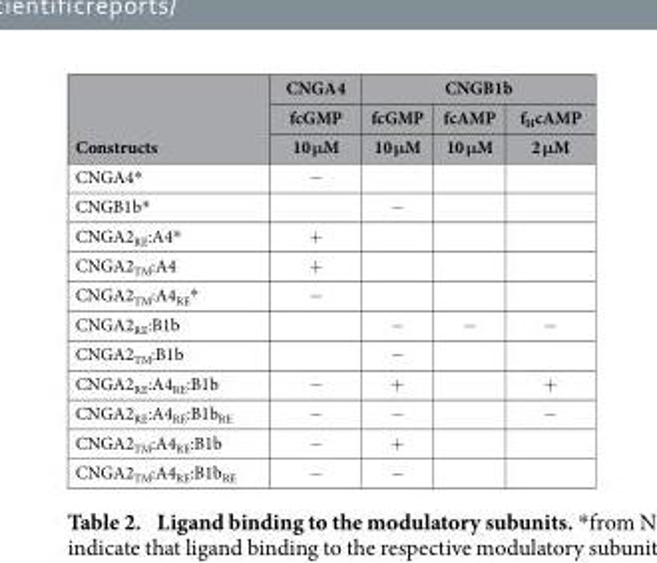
<table><thead><tr><td rowspan="3">Constructs</td><td rowspan="3">CNGA4 fcGMP 10 μM</td><td colspan="3">CNGB1b</td></tr><tr><td rowspan="2">fcGMP 10 μM</td><td rowspan="2">fcAMP 10 μM</td><td rowspan="2">f<sub>H</sub>cAMP 2 μM</td></tr><tr></tr></thead><tbody><tr><td>CNGA4*</td><td>−</td><td></td><td></td><td></td></tr><tr><td>CNGB1b*</td><td></td><td>−</td><td></td><td></td></tr><tr><td>CNGA2<sub>RE</sub>:A4*</td><td>+</td><td></td><td></td><td></td></tr><tr><td>CNGA2<sub>TM</sub>:A4</td><td>+</td><td></td><td></td><td></td></tr><tr><td>CNGA2<sub>TM</sub>:A4<sub>RE</sub>*</td><td>−</td><td></td><td></td><td></td></tr><tr><td>CNGA2<sub>RE</sub>:B1b</td><td></td><td>−</td><td>−</td><td>−</td></tr><tr><td>CNGA2<sub>TM</sub>:B1b</td><td></td><td>−</td><td></td><td></td></tr><tr><td>CNGA2<sub>RE</sub>:A4<sub>RE</sub>:B1b</td><td>−</td><td>+</td><td></td><td>+</td></tr><tr><td>CNGA2<sub>RE</sub>:A4<sub>RE</sub>:B1b<sub>RE</sub></td><td>−</td><td>−</td><td></td><td>−</td></tr><tr><td>CNGA2<sub>TM</sub>:A4<sub>RE</sub>:B1b</td><td>−</td><td>+</td><td></td><td></td></tr><tr><td>CNGA2<sub>TM</sub>:A4<sub>RE</sub>:B1b<sub>RE</sub></td><td>−</td><td>−</td><td></td><td></td></tr></tbody></table>